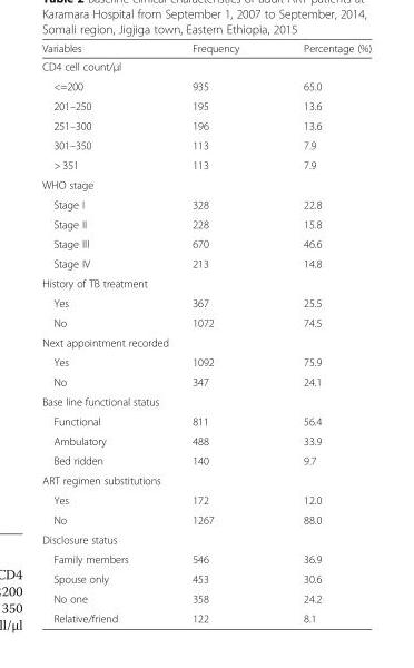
<table><thead><tr><td>Variables</td><td>Frequency</td><td>Percentage (%)</td></tr></thead><tbody><tr><td colspan="3">CD4 cell count/μl</td></tr><tr><td>&lt;=200</td><td>935</td><td>65.0</td></tr><tr><td>201–250</td><td>195</td><td>13.6</td></tr><tr><td>251–300</td><td>196</td><td>13.6</td></tr><tr><td>301–350</td><td>113</td><td>7.9</td></tr><tr><td>&gt; 351</td><td>113</td><td>7.9</td></tr><tr><td colspan="3">WHO stage</td></tr><tr><td>Stage I</td><td>328</td><td>22.8</td></tr><tr><td>Stage II</td><td>228</td><td>15.8</td></tr><tr><td>Stage III</td><td>670</td><td>46.6</td></tr><tr><td>Stage IV</td><td>213</td><td>14.8</td></tr><tr><td colspan="3">History of TB treatment</td></tr><tr><td>Yes</td><td>367</td><td>25.5</td></tr><tr><td>No</td><td>1072</td><td>74.5</td></tr><tr><td colspan="3">Next appointment recorded</td></tr><tr><td>Yes</td><td>1092</td><td>75.9</td></tr><tr><td>No</td><td>347</td><td>24.1</td></tr><tr><td colspan="3">Base line functional status</td></tr><tr><td>Functional</td><td>811</td><td>56.4</td></tr><tr><td>Ambulatory</td><td>488</td><td>33.9</td></tr><tr><td>Bed ridden</td><td>140</td><td>9.7</td></tr><tr><td colspan="3">ART regimen substitutions</td></tr><tr><td>Yes</td><td>172</td><td>12.0</td></tr><tr><td>No</td><td>1267</td><td>88.0</td></tr><tr><td colspan="3">Disclosure status</td></tr><tr><td>Family members</td><td>546</td><td>36.9</td></tr><tr><td>Spouse only</td><td>453</td><td>30.6</td></tr><tr><td>No one</td><td>358</td><td>24.2</td></tr><tr><td>Relative/friend</td><td>122</td><td>8.1</td></tr></tbody></table>